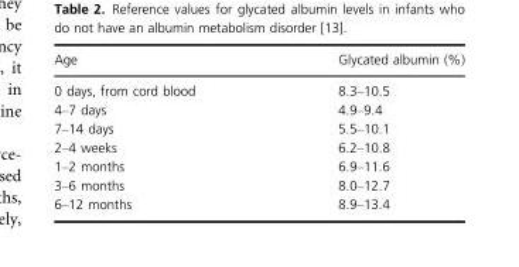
<table><thead><tr><td>Age</td><td>Glycated albumin (%)</td></tr></thead><tbody><tr><td>0 days, from cord blood</td><td>8.3–10.5</td></tr><tr><td>4–7 days</td><td>4.9–9.4</td></tr><tr><td>7–14 days</td><td>5.5–10.1</td></tr><tr><td>2–4 weeks</td><td>6.2–10.8</td></tr><tr><td>1–2 months</td><td>6.9–11.6</td></tr><tr><td>3–6 months</td><td>8.0–12.7</td></tr><tr><td>6–12 months</td><td>8.9–13.4</td></tr></tbody></table>